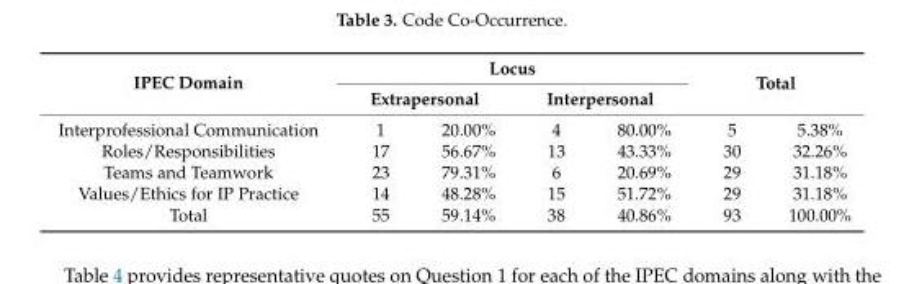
<table><thead><tr><td rowspan="3">IPEC Domain Interprofessional Communication</td><td colspan="4">Locus</td><td rowspan="2" colspan="2">Total</td></tr><tr><td colspan="2">Extrapersonal</td><td colspan="2">Interpersonal</td></tr><tr><td>1</td><td>20.00%</td><td>4</td><td>80.00%</td><td>5</td><td>5.38%</td></tr></thead><tbody><tr><td>Roles/Responsibilities</td><td>17</td><td>56.67%</td><td>13</td><td>43.33%</td><td>30</td><td>32.26%</td></tr><tr><td>Teams and Teamwork</td><td>23</td><td>79.31%</td><td>6</td><td>20.69%</td><td>29</td><td>31.18%</td></tr><tr><td>Values/Ethics for IP Practice</td><td>14</td><td>48.28%</td><td>15</td><td>51.72%</td><td>29</td><td>31.18%</td></tr><tr><td>Total</td><td>55</td><td>59.14%</td><td>38</td><td>40.86%</td><td>93</td><td>100.00%</td></tr></tbody></table>